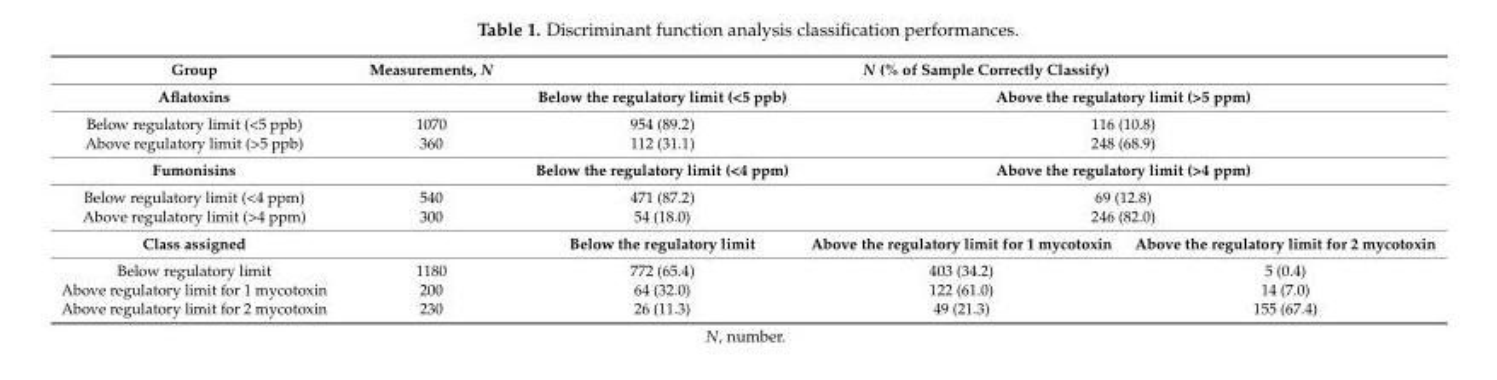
<table><thead><tr><td>Group</td><td>Measurements, N</td><td colspan="3">N (% of Sample Correctly Classify)</td></tr></thead><tbody><tr><td>Aflatoxins</td><td></td><td>Below the regulatory limit (&lt;5 ppb)</td><td colspan="2">Above the regulatory limit (&gt;5 ppm)</td></tr><tr><td>Below regulatory limit (&lt;5 ppb)</td><td>1070</td><td>954 (89.2)</td><td colspan="2">116 (10.8)</td></tr><tr><td>Above regulatory limit (&gt;5 ppb)</td><td>360</td><td>112 (31.1)</td><td colspan="2">248 (68.9)</td></tr><tr><td>Fumonisins</td><td></td><td>Below the regulatory limit (&lt;4 ppm)</td><td colspan="2">Above the regulatory limit (&gt;4 ppm)</td></tr><tr><td>Below regulatory limit (&lt;4 ppm)</td><td>540</td><td>471 (87.2)</td><td colspan="2">69 (12.8)</td></tr><tr><td>Above regulatory limit (&gt;4 ppm)</td><td>300</td><td>54 (18.0)</td><td colspan="2">246 (82.0)</td></tr><tr><td>Class assigned</td><td></td><td>Below the regulatory limit</td><td>Above the regulatory limit for 1 mycotoxin</td><td>Above the regulatory limit for 2 mycotoxin</td></tr><tr><td>Below regulatory limit</td><td>1180</td><td>772 (65.4)</td><td>403 (34.2)</td><td>5 (0.4)</td></tr><tr><td>Above regulatory limit for 1 mycotoxin</td><td>200</td><td>64 (32.0)</td><td>122 (61.0)</td><td>14 (7.0)</td></tr><tr><td>Above regulatory limit for 2 mycotoxin</td><td>230</td><td>26 (11.3)</td><td>49 (21.3)</td><td>155 (67.4)</td></tr></tbody></table>